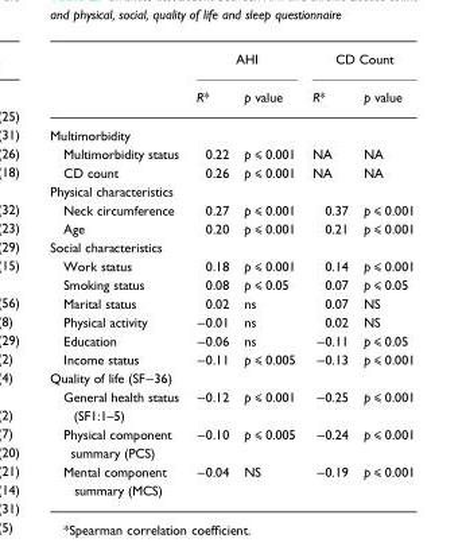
<table><thead><tr><td rowspan="2"></td><td colspan="2">AHI</td><td colspan="2">CD Count</td></tr><tr><td>R*</td><td>p value</td><td>R*</td><td>p value</td></tr></thead><tbody><tr><td colspan="5">Multimorbidity</td></tr><tr><td>Multimorbidity status</td><td>0.22</td><td>p ⩽ 0.001</td><td>NA</td><td>NA</td></tr><tr><td>CD count</td><td>0.26</td><td>p ⩽ 0.001</td><td>NA</td><td>NA</td></tr><tr><td colspan="5">Physical characteristics</td></tr><tr><td>Neck circumference</td><td>0.27</td><td>p ⩽ 0.001</td><td>0.37</td><td>p ⩽ 0.001</td></tr><tr><td>Age</td><td>0.20</td><td>p ⩽ 0.001</td><td>0.21</td><td>p ⩽ 0.001</td></tr><tr><td colspan="5">Social characteristics</td></tr><tr><td>Work status</td><td>0.18</td><td>p ⩽ 0.001</td><td>0.14</td><td>p ⩽ 0.001</td></tr><tr><td>Smoking status</td><td>0.08</td><td>p ⩽ 0.05</td><td>0.07</td><td>p ⩽ 0.05</td></tr><tr><td>Marital status</td><td>0.02</td><td>ns</td><td>0.07</td><td>NS</td></tr><tr><td>Physical activity</td><td>−0.01</td><td>ns</td><td>0.02</td><td>NS</td></tr><tr><td>Education</td><td>−0.06</td><td>ns</td><td>−0.11</td><td>p ⩽ 0.05</td></tr><tr><td>Income status</td><td>−0.11</td><td>p ⩽ 0.005</td><td>−0.13</td><td>p ⩽ 0.001</td></tr><tr><td colspan="5">Quality of life (SF−36)</td></tr><tr><td>General health status (SF1:1–5)</td><td>−0.12</td><td>p ⩽ 0.001</td><td>−0.25</td><td>p ⩽ 0.001</td></tr><tr><td>Physical component summary (PCS)</td><td>−0.10</td><td>p ⩽ 0.005</td><td>−0.24</td><td>p ⩽ 0.001</td></tr><tr><td>Mental component summary (MCS)</td><td>−0.04</td><td>NS</td><td>−0.19</td><td>p ⩽ 0.001</td></tr></tbody></table>